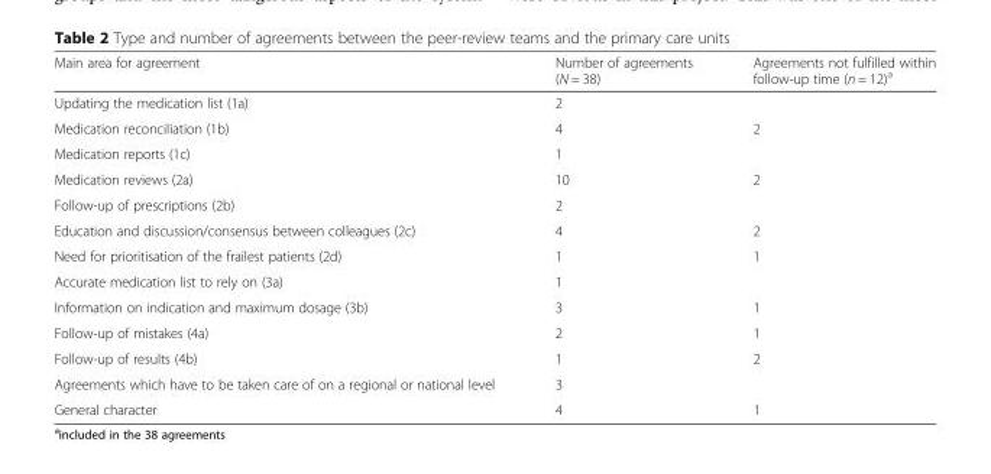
<table><thead><tr><td>Main area for agreement</td><td>Number of agreements (N = 38)</td><td>Agreements not fulfilled within follow-up time (n = 12)<sup>a</sup></td></tr></thead><tbody><tr><td>Updating the medication list (1a)</td><td>2</td><td></td></tr><tr><td>Medication reconciliation (1b)</td><td>4</td><td>2</td></tr><tr><td>Medication reports (1c)</td><td>1</td><td></td></tr><tr><td>Medication reviews (2a)</td><td>10</td><td>2</td></tr><tr><td>Follow-up of prescriptions (2b)</td><td>2</td><td></td></tr><tr><td>Education and discussion/consensus between colleagues (2c)</td><td>4</td><td>2</td></tr><tr><td>Need for prioritisation of the frailest patients (2d)</td><td>1</td><td>1</td></tr><tr><td>Accurate medication list to rely on (3a)</td><td>1</td><td></td></tr><tr><td>Information on indication and maximum dosage (3b)</td><td>3</td><td>1</td></tr><tr><td>Follow-up of mistakes (4a)</td><td>2</td><td>1</td></tr><tr><td>Follow-up of results (4b)</td><td>1</td><td>2</td></tr><tr><td>Agreements which have to be taken care of on a regional or national level</td><td>3</td><td></td></tr><tr><td>General character</td><td>4</td><td>1</td></tr></tbody></table>